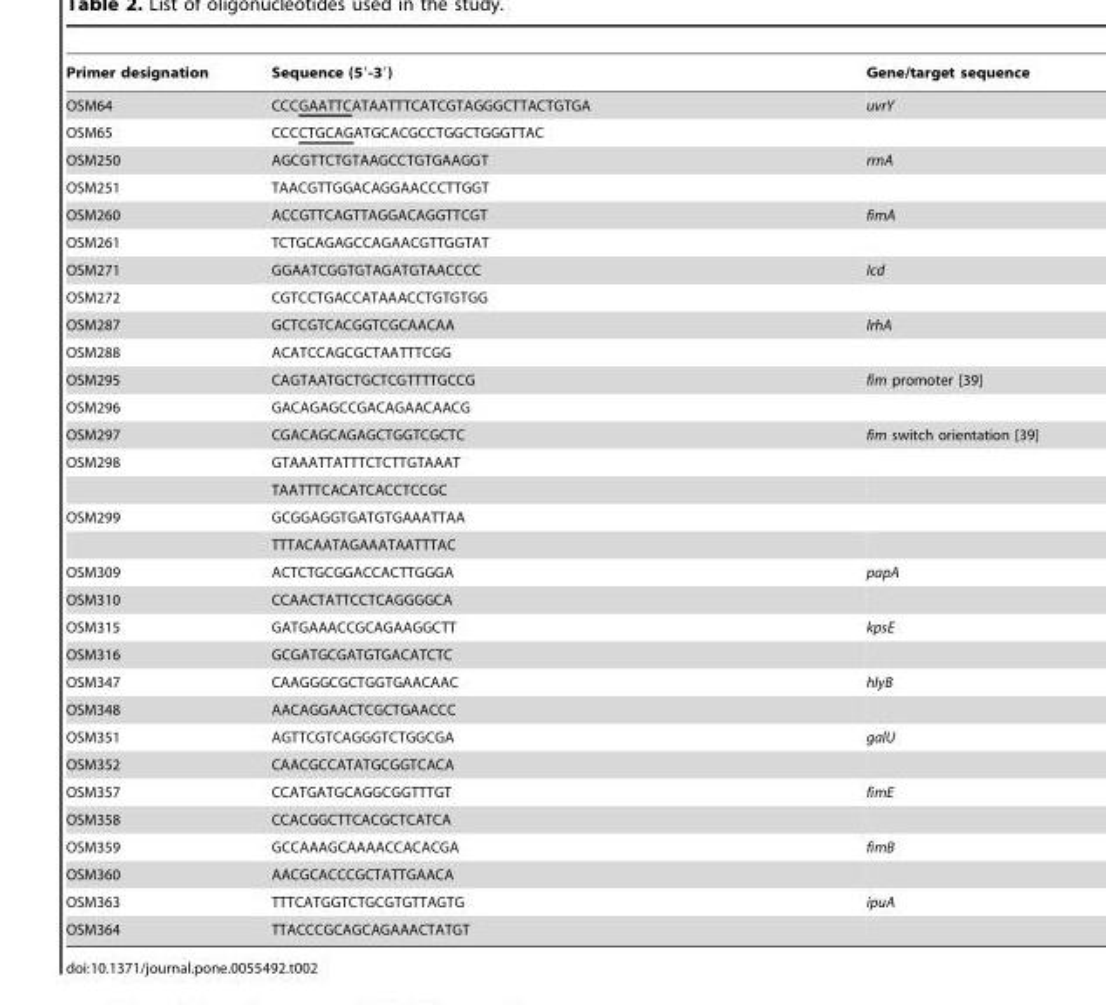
<table><thead><tr><td>Primer designation</td><td>Sequence (5′-3′)</td><td>Gene/target sequence</td></tr></thead><tbody><tr><td>OSM64</td><td>CCCGAATTCATAATTTCATCGTAGGGCTTACTGTGA</td><td>uvrY</td></tr><tr><td>OSM65</td><td>CCCCTGCAGATGCACGCCTGGCTGGGTTAC</td><td></td></tr><tr><td>OSM250</td><td>AGCGTTCTGTAAGCCTGTGAAGGT</td><td>rrnA</td></tr><tr><td>OSM251</td><td>TAACGTTGGACAGGAACCCTTGGT</td><td></td></tr><tr><td>OSM260</td><td>ACCGTTCAGTTAGGACAGGTTCGT</td><td>fimA</td></tr><tr><td>OSM261</td><td>TCTGCAGAGCCAGAACGTTGGTAT</td><td></td></tr><tr><td>OSM271</td><td>GGAATCGGTGTAGATGTAACCCC</td><td>Icd</td></tr><tr><td>OSM272</td><td>CGTCCTGACCATAAACCTGTGTGG</td><td></td></tr><tr><td>OSM287</td><td>GCTCGTCACGGTCGCAACAA</td><td>lrhA</td></tr><tr><td>OSM288</td><td>ACATCCAGCGCTAATTTCGG</td><td></td></tr><tr><td>OSM295</td><td>CAGTAATGCTGCTCGTTTTGCCG</td><td>fim promoter [39]</td></tr><tr><td>OSM296</td><td>GACAGAGCCGACAGAACAACG</td><td></td></tr><tr><td>OSM297</td><td>CGACAGCAGAGCTGGTCGCTC</td><td>fim switch orientation [39]</td></tr><tr><td rowspan="2">OSM298</td><td>GTAAATTATTTCTCTTGTAAAT</td><td></td></tr><tr><td>TAATTTCACATCACCTCCGC</td><td></td></tr><tr><td rowspan="2">OSM299</td><td>GCGGAGGTGATGTGAAATTAA</td><td></td></tr><tr><td>TTTACAATAGAAATAATTTAC</td><td></td></tr><tr><td>OSM309</td><td>ACTCTGCGGACCACTTGGGA</td><td>papA</td></tr><tr><td>OSM310</td><td>CCAACTATTCCTCAGGGGCA</td><td></td></tr><tr><td>OSM315</td><td>GATGAAACCGCAGAAGGCTT</td><td>kpsE</td></tr><tr><td>OSM316</td><td>GCGATGCGATGTGACATCTC</td><td></td></tr><tr><td>OSM347</td><td>CAAGGGCGCTGGTGAACAAC</td><td>hlyB</td></tr><tr><td>OSM348</td><td>AACAGGAACTCGCTGAACCC</td><td></td></tr><tr><td>OSM351</td><td>AGTTCGTCAGGGTCTGGCGA</td><td>galU</td></tr><tr><td>OSM352</td><td>CAACGCCATATGCGGTCACA</td><td></td></tr><tr><td>OSM357</td><td>CCATGATGCAGGCGGTTTGT</td><td>fimE</td></tr><tr><td>OSM358</td><td>CCACGGCTTCACGCTCATCA</td><td></td></tr><tr><td>OSM359</td><td>GCCAAAGCAAAACCACACGA</td><td>fimB</td></tr><tr><td>OSM360</td><td>AACGCACCCGCTATTGAACA</td><td></td></tr><tr><td>OSM363</td><td>TTTCATGGTCTGCGTGTTAGTG</td><td>ipuA</td></tr><tr><td>OSM364</td><td>TTACCCGCAGCAGAAACTATGT</td><td></td></tr></tbody></table>